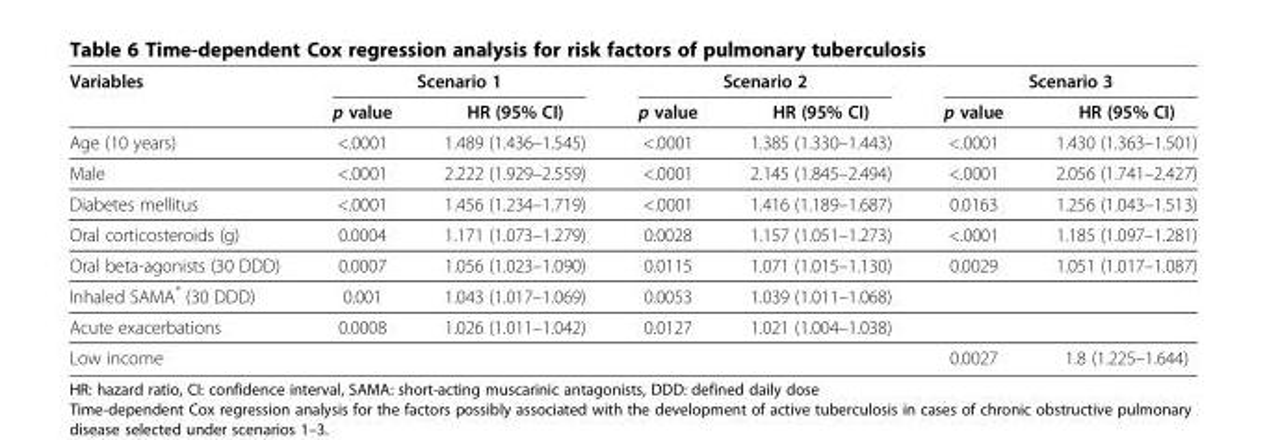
<table><thead><tr><td rowspan="2">Variables</td><td colspan="2">Scenario 1</td><td colspan="2">Scenario 2</td><td colspan="2">Scenario 3</td></tr><tr><td>p value</td><td>HR (95% CI)</td><td>p value</td><td>HR (95% CI)</td><td>p value</td><td>HR (95% CI)</td></tr></thead><tbody><tr><td>Age (10 years)</td><td>&lt;.0001</td><td>1.489 (1.436–1.545)</td><td>&lt;.0001</td><td>1.385 (1.330–1.443)</td><td>&lt;.0001</td><td>1.430 (1.363–1.501)</td></tr><tr><td>Male</td><td>&lt;.0001</td><td>2.222 (1.929–2.559)</td><td>&lt;.0001</td><td>2.145 (1.845–2.494)</td><td>&lt;.0001</td><td>2.056 (1.741–2.427)</td></tr><tr><td>Diabetes mellitus</td><td>&lt;.0001</td><td>1.456 (1.234–1.719)</td><td>&lt;.0001</td><td>1.416 (1.189–1.687)</td><td>0.0163</td><td>1.256 (1.043–1.513)</td></tr><tr><td>Oral corticosteroids (g)</td><td>0.0004</td><td>1.171 (1.073–1.279)</td><td>0.0028</td><td>1.157 (1.051–1.273)</td><td>&lt;.0001</td><td>1.185 (1.097–1.281)</td></tr><tr><td>Oral beta-agonists (30 DDD)</td><td>0.0007</td><td>1.056 (1.023–1.090)</td><td>0.0115</td><td>1.071 (1.015–1.130)</td><td>0.0029</td><td>1.051 (1.017–1.087)</td></tr><tr><td>Inhaled SAMA* (30 DDD)</td><td>0.001</td><td>1.043 (1.017–1.069)</td><td>0.0053</td><td>1.039 (1.011–1.068)</td><td></td><td></td></tr><tr><td>Acute exacerbations</td><td>0.0008</td><td>1.026 (1.011–1.042)</td><td>0.0127</td><td>1.021 (1.004–1.038)</td><td></td><td></td></tr><tr><td>Low income</td><td></td><td></td><td></td><td></td><td>0.0027</td><td>1.8 (1.225–1.644)</td></tr></tbody></table>